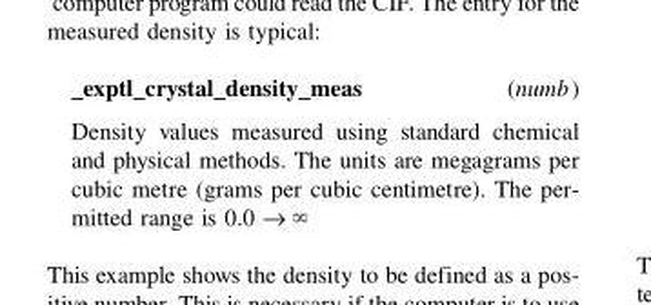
<table><tbody><tr><td>_exptl_crystal_density_meas</td><td>(numb)</td></tr><tr><td colspan="2">Density values measured using standard chemical and physical methods. The units are megagrams per cubic metre (grams per cubic centimetre). The per- mitted range is 0.0 → �</td></tr></tbody></table>